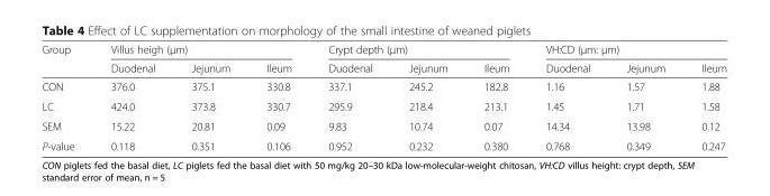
<table><thead><tr><td rowspan="2">Group</td><td colspan="3">Villus heigh (μm)</td><td colspan="3">Crypt depth (μm)</td><td colspan="3">VH:CD (μm: μm)</td></tr><tr><td>Duodenal</td><td>Jejunum</td><td>Ileum</td><td>Duodenal</td><td>Jejunum</td><td>Ileum</td><td>Duodenal</td><td>Jejunum</td><td>Ileum</td></tr></thead><tbody><tr><td>CON</td><td>376.0</td><td>375.1</td><td>330.8</td><td>337.1</td><td>245.2</td><td>182.8</td><td>1.16</td><td>1.57</td><td>1.88</td></tr><tr><td>LC</td><td>424.0</td><td>373.8</td><td>330.7</td><td>295.9</td><td>218.4</td><td>213.1</td><td>1.45</td><td>1.71</td><td>1.58</td></tr><tr><td>SEM</td><td>15.22</td><td>20.81</td><td>0.09</td><td>9.83</td><td>10.74</td><td>0.07</td><td>14.34</td><td>13.98</td><td>0.12</td></tr><tr><td>P-value</td><td>0.118</td><td>0.351</td><td>0.106</td><td>0.952</td><td>0.232</td><td>0.380</td><td>0.768</td><td>0.349</td><td>0.247</td></tr></tbody></table>